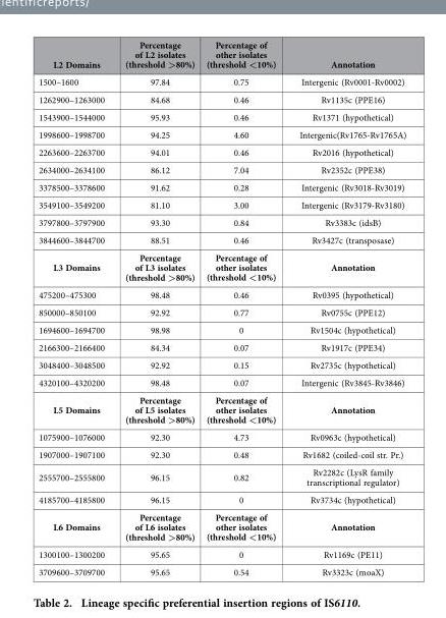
<table><thead><tr><td>L2 Domains</td><td>Percentage of L2 isolates (threshold &gt;80%)</td><td>Percentage of other isolates (threshold &lt;10%)</td><td>Annotation</td></tr></thead><tbody><tr><td>1500–1600</td><td>97.84</td><td>0.75</td><td>Intergenic (Rv0001-Rv0002)</td></tr><tr><td>1262900–1263000</td><td>84.68</td><td>0.46</td><td>Rv1135c (PPE16)</td></tr><tr><td>1543900–1544000</td><td>95.93</td><td>0.46</td><td>Rv1371 (hypothetical)</td></tr><tr><td>1998600–1998700</td><td>94.25</td><td>4.60</td><td>Intergenic(Rv1765-Rv1765A)</td></tr><tr><td>2263600–2263700</td><td>94.01</td><td>0.46</td><td>Rv2016 (hypothetical)</td></tr><tr><td>2634000–2634100</td><td>86.12</td><td>7.04</td><td>Rv2352c (PPE38)</td></tr><tr><td>3378500–3378600</td><td>91.62</td><td>0.28</td><td>Intergenic (Rv3018-Rv3019)</td></tr><tr><td>3549100–3549200</td><td>81.10</td><td>3.00</td><td>Intergenic (Rv3179-Rv3180)</td></tr><tr><td>3797800–3797900</td><td>93.30</td><td>0.84</td><td>Rv3383c (idsB)</td></tr><tr><td>3844600–3844700</td><td>88.51</td><td>0.46</td><td>Rv3427c (transposase)</td></tr><tr><td>L3 Domains</td><td>Percentage of L3 isolates (threshold &gt;80%)</td><td>Percentage of other isolates (threshold &lt;10%)</td><td>Annotation</td></tr><tr><td>475200–475300</td><td>98.48</td><td>0.46</td><td>Rv0395 (hypothetical)</td></tr><tr><td>850000–850100</td><td>92.92</td><td>0.77</td><td>Rv0755c (PPE12)</td></tr><tr><td>1694600–1694700</td><td>98.98</td><td>0</td><td>Rv1504c (hypothetical)</td></tr><tr><td>2166300–2166400</td><td>84.34</td><td>0.07</td><td>Rv1917c (PPE34)</td></tr><tr><td>3048400–3048500</td><td>92.92</td><td>0.15</td><td>Rv2735c (hypothetical)</td></tr><tr><td>4320100–4320200</td><td>98.48</td><td>0.07</td><td>Intergenic (Rv3845-Rv3846)</td></tr><tr><td>L5 Domains</td><td>Percentage of L5 isolates (threshold &gt;80%)</td><td>Percentage of other isolates (threshold &lt;10%)</td><td>Annotation</td></tr><tr><td>1075900–1076000</td><td>92.30</td><td>4.73</td><td>Rv0963c (hypothetical)</td></tr><tr><td>1907000–1907100</td><td>92.30</td><td>0.48</td><td>Rv1682 (coiled-coil str. Pr.)</td></tr><tr><td>2555700–2555800</td><td>96.15</td><td>0.82</td><td>Rv2282c (LysR family transcriptional regulator)</td></tr><tr><td>4185700–4185800</td><td>96.15</td><td>0</td><td>Rv3734c (hypothetical)</td></tr><tr><td>L6 Domains</td><td>Percentage of L6 isolates (threshold &gt;80%)</td><td>Percentage of other isolates (threshold &lt;10%)</td><td>Annotation</td></tr><tr><td>1300100–1300200</td><td>95.65</td><td>0</td><td>Rv1169c (PE11)</td></tr><tr><td>3709600–3709700</td><td>95.65</td><td>0.54</td><td>Rv3323c (moaX)</td></tr></tbody></table>